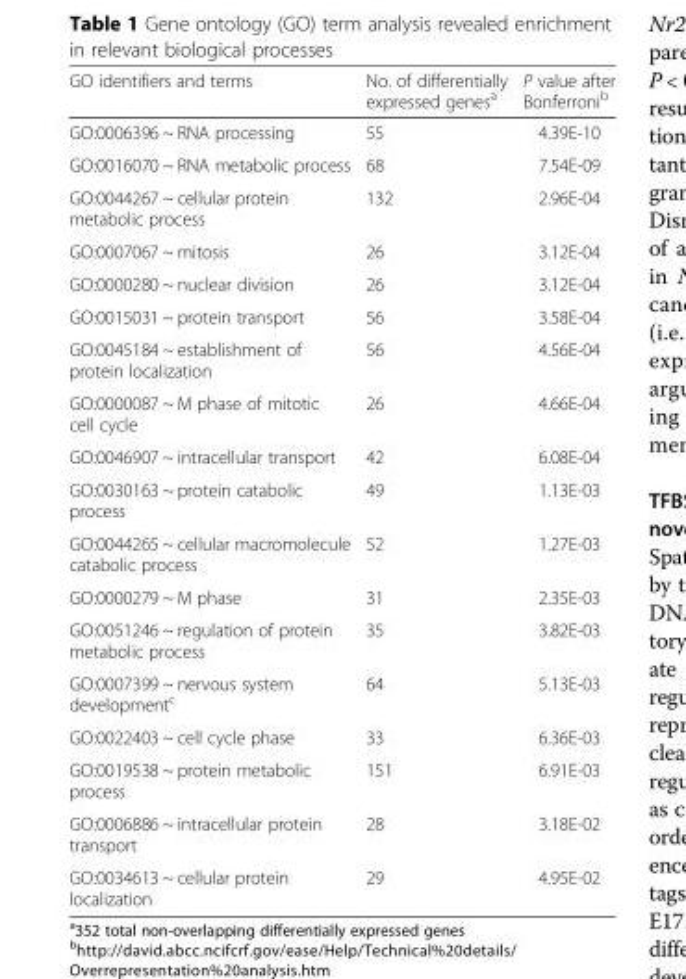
<table><thead><tr><td>GO identifiers and terms</td><td>No. of differentially expressed genes<sup>a</sup></td><td>P value after Bonferroni<sup>b</sup></td></tr></thead><tbody><tr><td>GO:0006396 ~ RNA processing</td><td>55</td><td>4.39E-10</td></tr><tr><td>GO:0016070 ~ RNA metabolic process</td><td>68</td><td>7.54E-09</td></tr><tr><td>GO:0044267 ~ cellular protein metabolic process</td><td>132</td><td>2.96E-04</td></tr><tr><td>GO:0007067 ~ mitosis</td><td>26</td><td>3.12E-04</td></tr><tr><td>GO:0000280 ~ nuclear division</td><td>26</td><td>3.12E-04</td></tr><tr><td>GO:0015031 ~ protein transport</td><td>56</td><td>3.58E-04</td></tr><tr><td>GO:0045184 ~ establishment of protein localization</td><td>56</td><td>4.56E-04</td></tr><tr><td>GO:0000087 ~ M phase of mitotic cell cycle</td><td>26</td><td>4.66E-04</td></tr><tr><td>GO:0046907 ~ intracellular transport</td><td>42</td><td>6.08E-04</td></tr><tr><td>GO:0030163 ~ protein catabolic process</td><td>49</td><td>1.13E-03</td></tr><tr><td>GO:0044265 ~ cellular macromolecule catabolic process</td><td>52</td><td>1.27E-03</td></tr><tr><td>GO:0000279 ~ M phase</td><td>31</td><td>2.35E-03</td></tr><tr><td>GO:0051246 ~ regulation of protein metabolic process</td><td>35</td><td>3.82E-03</td></tr><tr><td>GO:0007399 ~ nervous system development<sup>c</sup></td><td>64</td><td>5.13E-03</td></tr><tr><td>GO:0022403 ~ cell cycle phase</td><td>33</td><td>6.36E-03</td></tr><tr><td>GO:0019538 ~ protein metabolic process</td><td>151</td><td>6.91E-03</td></tr><tr><td>GO:0006886 ~ intracellular protein transport</td><td>28</td><td>3.18E-02</td></tr><tr><td>GO:0034613 ~ cellular protein localization</td><td>29</td><td>4.95E-02</td></tr></tbody></table>